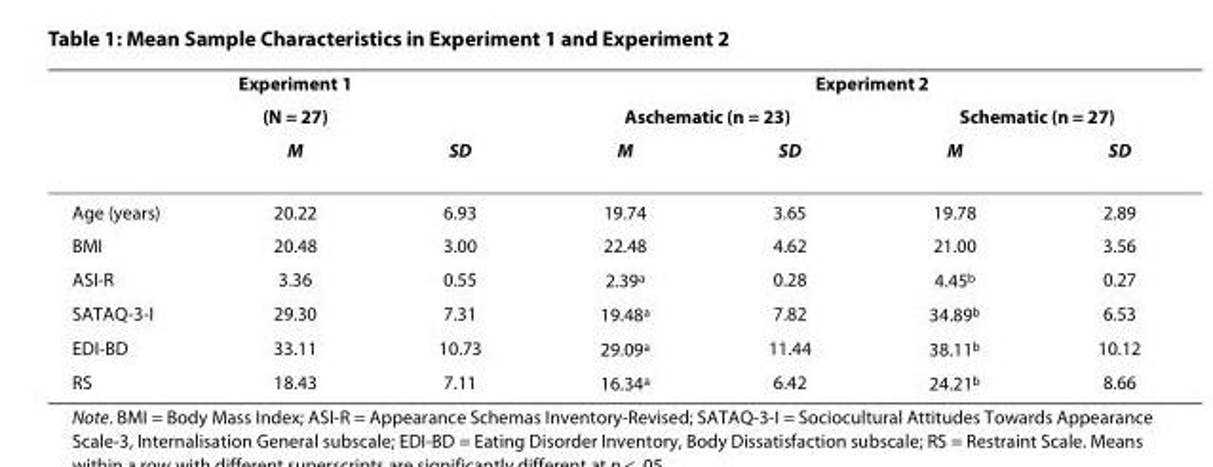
<table><thead><tr><td rowspan="2" colspan="3">Experiment 1 (N = 27)</td><td colspan="4">Experiment 2</td></tr><tr><td colspan="2">Aschematic (n = 23)</td><td colspan="2">Schematic (n = 27)</td></tr><tr><td></td><td>M</td><td>SD</td><td>M</td><td>SD</td><td>M</td><td>SD</td></tr></thead><tbody><tr><td>Age (years)</td><td>20.22</td><td>6.93</td><td>19.74</td><td>3.65</td><td>19.78</td><td>2.89</td></tr><tr><td>BMI</td><td>20.48</td><td>3.00</td><td>22.48</td><td>4.62</td><td>21.00</td><td>3.56</td></tr><tr><td>ASI-R</td><td>3.36</td><td>0.55</td><td>2.39<sup>a</sup></td><td>0.28</td><td>4.45<sup>b</sup></td><td>0.27</td></tr><tr><td>SATAQ-3-I</td><td>29.30</td><td>7.31</td><td>19.48<sup>a</sup></td><td>7.82</td><td>34.89<sup>b</sup></td><td>6.53</td></tr><tr><td>EDI-BD</td><td>33.11</td><td>10.73</td><td>29.09<sup>a</sup></td><td>11.44</td><td>38.11<sup>b</sup></td><td>10.12</td></tr><tr><td>RS</td><td>18.43</td><td>7.11</td><td>16.34<sup>a</sup></td><td>6.42</td><td>24.21<sup>b</sup></td><td>8.66</td></tr></tbody></table>